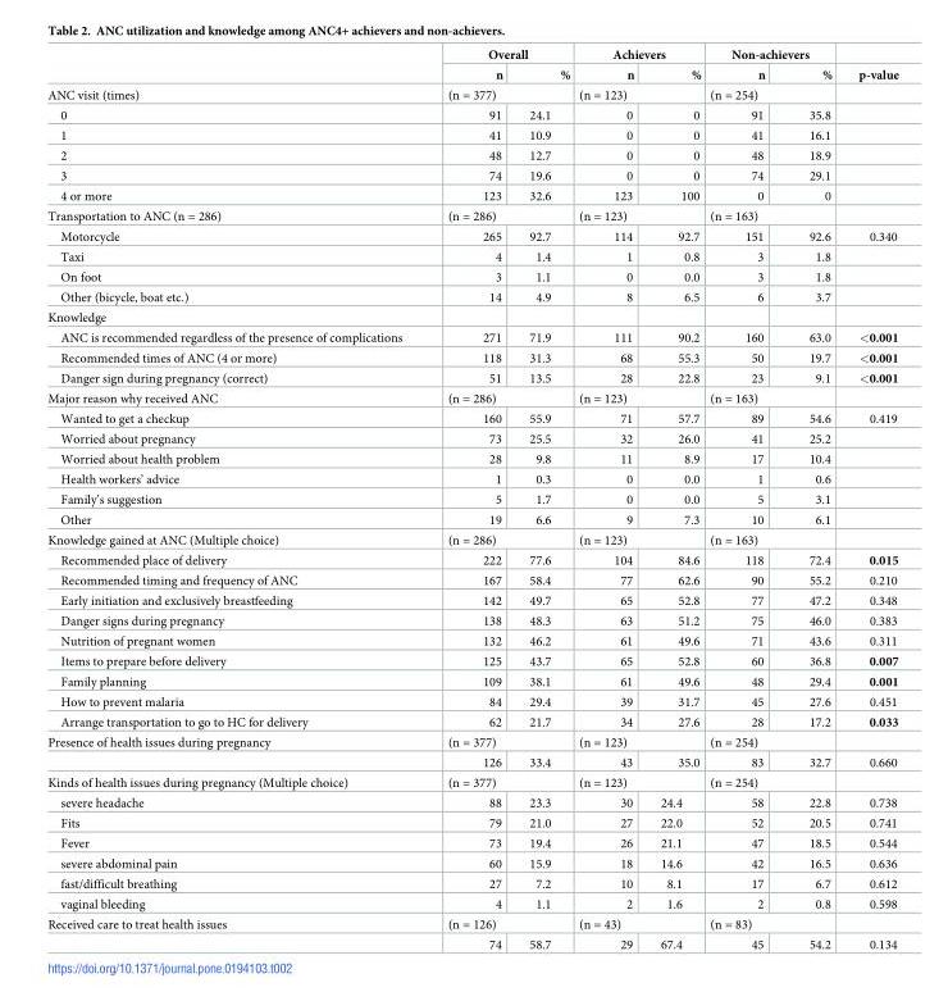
<table><thead><tr><td rowspan="2"></td><td colspan="2">Overall</td><td colspan="2">Achievers</td><td colspan="2">Non-achievers</td><td rowspan="2">p-value</td></tr><tr><td>n</td><td>%</td><td>n</td><td>%</td><td>n</td><td>%</td></tr></thead><tbody><tr><td>ANC visit (times)</td><td colspan="2">(n = 377)</td><td colspan="2">(n = 123)</td><td colspan="2">(n = 254)</td><td></td></tr><tr><td>0</td><td>91</td><td>24.1</td><td>0</td><td>0</td><td>91</td><td>35.8</td><td></td></tr><tr><td>1</td><td>41</td><td>10.9</td><td>0</td><td>0</td><td>41</td><td>16.1</td><td></td></tr><tr><td>2</td><td>48</td><td>12.7</td><td>0</td><td>0</td><td>48</td><td>18.9</td><td></td></tr><tr><td>3</td><td>74</td><td>19.6</td><td>0</td><td>0</td><td>74</td><td>29.1</td><td></td></tr><tr><td>4 or more</td><td>123</td><td>32.6</td><td>123</td><td>100</td><td>0</td><td>0</td><td></td></tr><tr><td>Transportation to ANC (n = 286)</td><td colspan="2">(n = 286)</td><td colspan="2">(n = 123)</td><td colspan="2">(n = 163)</td><td></td></tr><tr><td>Motorcycle</td><td>265</td><td>92.7</td><td>114</td><td>92.7</td><td>151</td><td>92.6</td><td>0.340</td></tr><tr><td>Taxi</td><td>4</td><td>1.4</td><td>1</td><td>0.8</td><td>3</td><td>1.8</td><td></td></tr><tr><td>On foot</td><td>3</td><td>1.1</td><td>0</td><td>0.0</td><td>3</td><td>1.8</td><td></td></tr><tr><td>Other (bicycle, boat etc.)</td><td>14</td><td>4.9</td><td>8</td><td>6.5</td><td>6</td><td>3.7</td><td></td></tr><tr><td colspan="8">Knowledge</td></tr><tr><td>ANC is recommended regardless of the presence of complications</td><td>271</td><td>71.9</td><td>111</td><td>90.2</td><td>160</td><td>63.0</td><td>&lt;0.001</td></tr><tr><td>Recommended times of ANC (4 or more)</td><td>118</td><td>31.3</td><td>68</td><td>55.3</td><td>50</td><td>19.7</td><td>&lt;0.001</td></tr><tr><td>Danger sign during pregnancy (correct)</td><td>51</td><td>13.5</td><td>28</td><td>22.8</td><td>23</td><td>9.1</td><td>&lt;0.001</td></tr><tr><td>Major reason why received ANC</td><td colspan="2">(n = 286)</td><td colspan="2">(n = 123)</td><td colspan="2">(n = 163)</td><td></td></tr><tr><td>Wanted to get a checkup</td><td>160</td><td>55.9</td><td>71</td><td>57.7</td><td>89</td><td>54.6</td><td>0.419</td></tr><tr><td>Worried about pregnancy</td><td>73</td><td>25.5</td><td>32</td><td>26.0</td><td>41</td><td>25.2</td><td></td></tr><tr><td>Worried about health problem</td><td>28</td><td>9.8</td><td>11</td><td>8.9</td><td>17</td><td>10.4</td><td></td></tr><tr><td>Health workers’ advice</td><td>1</td><td>0.3</td><td>0</td><td>0.0</td><td>1</td><td>0.6</td><td></td></tr><tr><td>Family’s suggestion</td><td>5</td><td>1.7</td><td>0</td><td>0.0</td><td>5</td><td>3.1</td><td></td></tr><tr><td>Other</td><td>19</td><td>6.6</td><td>9</td><td>7.3</td><td>10</td><td>6.1</td><td></td></tr><tr><td>Knowledge gained at ANC (Multiple choice)</td><td colspan="2">(n = 286)</td><td colspan="2">(n = 123)</td><td colspan="2">(n = 163)</td><td></td></tr><tr><td>Recommended place of delivery</td><td>222</td><td>77.6</td><td>104</td><td>84.6</td><td>118</td><td>72.4</td><td>0.015</td></tr><tr><td>Recommended timing and frequency of ANC</td><td>167</td><td>58.4</td><td>77</td><td>62.6</td><td>90</td><td>55.2</td><td>0.210</td></tr><tr><td>Early initiation and exclusively breastfeeding</td><td>142</td><td>49.7</td><td>65</td><td>52.8</td><td>77</td><td>47.2</td><td>0.348</td></tr><tr><td>Danger signs during pregnancy</td><td>138</td><td>48.3</td><td>63</td><td>51.2</td><td>75</td><td>46.0</td><td>0.383</td></tr><tr><td>Nutrition of pregnant women</td><td>132</td><td>46.2</td><td>61</td><td>49.6</td><td>71</td><td>43.6</td><td>0.311</td></tr><tr><td>Items to prepare before delivery</td><td>125</td><td>43.7</td><td>65</td><td>52.8</td><td>60</td><td>36.8</td><td>0.007</td></tr><tr><td>Family planning</td><td>109</td><td>38.1</td><td>61</td><td>49.6</td><td>48</td><td>29.4</td><td>0.001</td></tr><tr><td>How to prevent malaria</td><td>84</td><td>29.4</td><td>39</td><td>31.7</td><td>45</td><td>27.6</td><td>0.451</td></tr><tr><td>Arrange transportation to go to HC for delivery</td><td>62</td><td>21.7</td><td>34</td><td>27.6</td><td>28</td><td>17.2</td><td>0.033</td></tr><tr><td rowspan="2">Presence of health issues during pregnancy</td><td colspan="2">(n = 377)</td><td colspan="2">(n = 123)</td><td colspan="2">(n = 254)</td><td></td></tr><tr><td>126</td><td>33.4</td><td>43</td><td>35.0</td><td>83</td><td>32.7</td><td>0.660</td></tr><tr><td>Kinds of health issues during pregnancy (Multiple choice)</td><td colspan="2">(n = 377)</td><td colspan="2">(n = 123)</td><td colspan="2">(n = 254)</td><td></td></tr><tr><td>severe headache</td><td>88</td><td>23.3</td><td>30</td><td>24.4</td><td>58</td><td>22.8</td><td>0.738</td></tr><tr><td>Fits</td><td>79</td><td>21.0</td><td>27</td><td>22.0</td><td>52</td><td>20.5</td><td>0.741</td></tr><tr><td>Fever</td><td>73</td><td>19.4</td><td>26</td><td>21.1</td><td>47</td><td>18.5</td><td>0.544</td></tr><tr><td>severe abdominal pain</td><td>60</td><td>15.9</td><td>18</td><td>14.6</td><td>42</td><td>16.5</td><td>0.636</td></tr><tr><td>fast/difficult breathing</td><td>27</td><td>7.2</td><td>10</td><td>8.1</td><td>17</td><td>6.7</td><td>0.612</td></tr><tr><td>vaginal bleeding</td><td>4</td><td>1.1</td><td>2</td><td>1.6</td><td>2</td><td>0.8</td><td>0.598</td></tr><tr><td rowspan="2">Received care to treat health issues</td><td colspan="2">(n = 126)</td><td colspan="2">(n = 43)</td><td colspan="2">(n = 83)</td><td></td></tr><tr><td>74</td><td>58.7</td><td>29</td><td>67.4</td><td>45</td><td>54.2</td><td>0.134</td></tr></tbody></table>